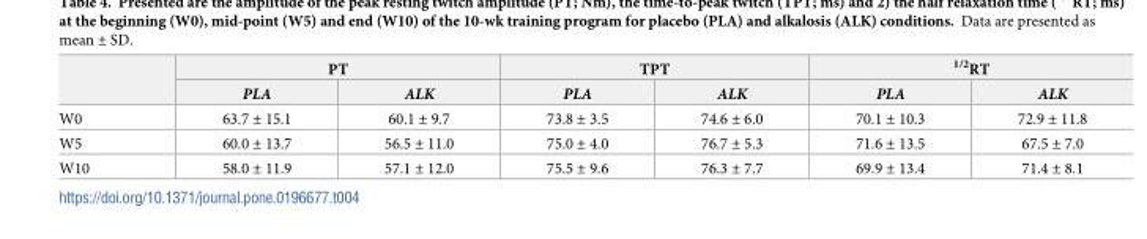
<table><thead><tr><td rowspan="2"></td><td colspan="2">PT</td><td colspan="2">TPT</td><td colspan="2"><sup>1/2</sup>RT</td></tr><tr><td>PLA</td><td>ALK</td><td>PLA</td><td>ALK</td><td>PLA</td><td>ALK</td></tr></thead><tbody><tr><td>W0</td><td>63.7 ± 15.1</td><td>60.1 ± 9.7</td><td>73.8 ± 3.5</td><td>74.6 ± 6.0</td><td>70.1 ± 10.3</td><td>72.9 ± 11.8</td></tr><tr><td>W5</td><td>60.0 ± 13.7</td><td>56.5 ± 11.0</td><td>75.0 ± 4.0</td><td>76.7 ± 5.3</td><td>71.6 ± 13.5</td><td>67.5 ± 7.0</td></tr><tr><td>W10</td><td>58.0 ± 11.9</td><td>57.1 ± 12.0</td><td>75.5 ± 9.6</td><td>76.3 ± 7.7</td><td>69.9 ± 13.4</td><td>71.4 ± 8.1</td></tr></tbody></table>